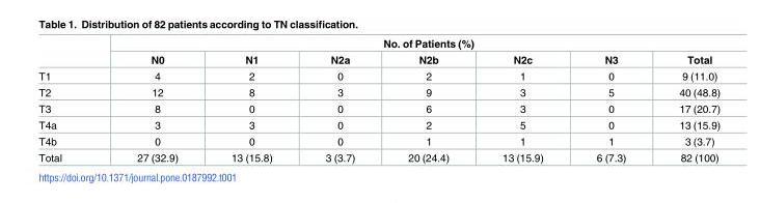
<table><thead><tr><td rowspan="2"></td><td colspan="7">No. of Patients (%)</td></tr><tr><td>N0</td><td>N1</td><td>N2a</td><td>N2b</td><td>N2c</td><td>N3</td><td>Total</td></tr></thead><tbody><tr><td>T1</td><td>4</td><td>2</td><td>0</td><td>2</td><td>1</td><td>0</td><td>9 (11.0)</td></tr><tr><td>T2</td><td>12</td><td>8</td><td>3</td><td>9</td><td>3</td><td>5</td><td>40 (48.8)</td></tr><tr><td>T3</td><td>8</td><td>0</td><td>0</td><td>6</td><td>3</td><td>0</td><td>17 (20.7)</td></tr><tr><td>T4a</td><td>3</td><td>3</td><td>0</td><td>2</td><td>5</td><td>0</td><td>13 (15.9)</td></tr><tr><td>T4b</td><td>0</td><td>0</td><td>0</td><td>1</td><td>1</td><td>1</td><td>3 (3.7)</td></tr><tr><td>Total</td><td>27 (32.9)</td><td>13 (15.8)</td><td>3 (3.7)</td><td>20 (24.4)</td><td>13 (15.9)</td><td>6 (7.3)</td><td>82 (100)</td></tr></tbody></table>